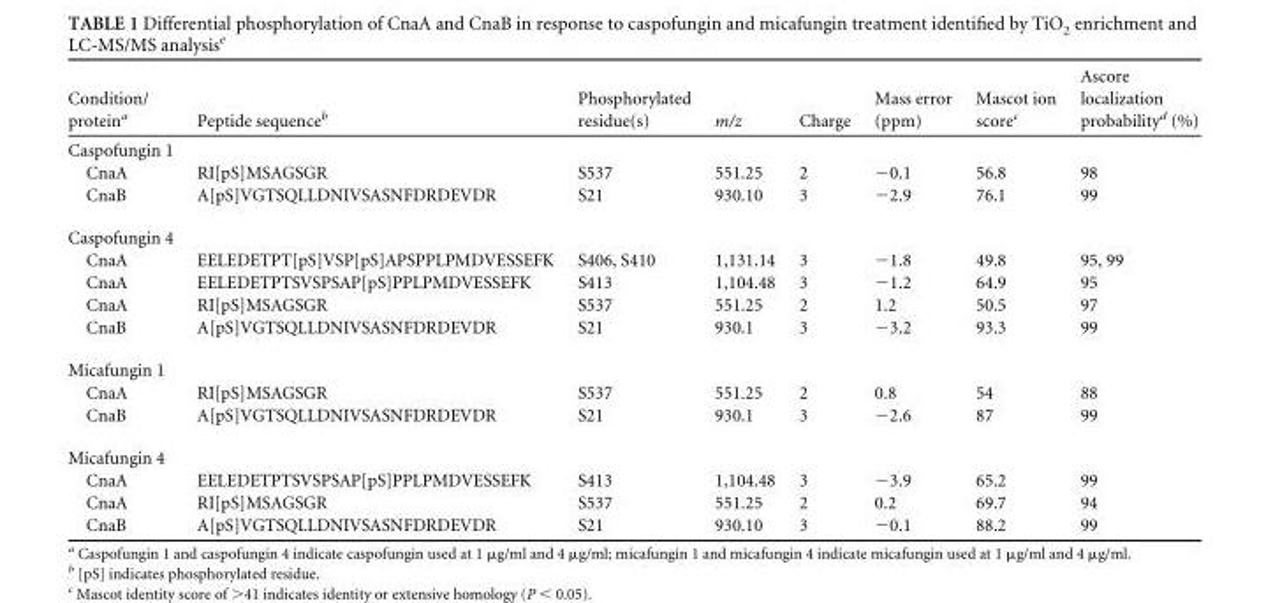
<table><thead><tr><td>Condition/ protein<sup>a</sup></td><td>Peptide sequence<sup>b</sup></td><td>Phosphorylated residue(s)</td><td>m/z</td><td>Charge</td><td>Mass error (ppm)</td><td>Mascot ion score<sup>c</sup></td><td>Ascore localization probability<sup>d</sup> (%)</td></tr></thead><tbody><tr><td colspan="8">Caspofungin 1</td></tr><tr><td>CnaA</td><td>RI[pS]MSAGSGR</td><td>S537</td><td>551.25</td><td>2</td><td>−0.1</td><td>56.8</td><td>98</td></tr><tr><td>CnaB</td><td>A[pS]VGTSQLLDNIVSASNFDRDEVDR</td><td>S21</td><td>930.10</td><td>3</td><td>−2.9</td><td>76.1</td><td>99</td></tr><tr><td colspan="8">Caspofungin 4</td></tr><tr><td>CnaA</td><td>EELEDETPT[pS]VSP[pS]APSPPLPMDVESSEFK</td><td>S406, S410</td><td>1,131.14</td><td>3</td><td>−1.8</td><td>49.8</td><td>95, 99</td></tr><tr><td>CnaA</td><td>EELEDETPTSVSPSAP[pS]PPLPMDVESSEFK</td><td>S413</td><td>1,104.48</td><td>3</td><td>−1.2</td><td>64.9</td><td>95</td></tr><tr><td>CnaA</td><td>RI[pS]MSAGSGR</td><td>S537</td><td>551.25</td><td>2</td><td>1.2</td><td>50.5</td><td>97</td></tr><tr><td>CnaB</td><td>A[pS]VGTSQLLDNIVSASNFDRDEVDR</td><td>S21</td><td>930.1</td><td>3</td><td>−3.2</td><td>93.3</td><td>99</td></tr><tr><td colspan="8">Micafungin 1</td></tr><tr><td>CnaA</td><td>RI[pS]MSAGSGR</td><td>S537</td><td>551.25</td><td>2</td><td>0.8</td><td>54</td><td>88</td></tr><tr><td>CnaB</td><td>A[pS]VGTSQLLDNIVSASNFDRDEVDR</td><td>S21</td><td>930.1</td><td>3</td><td>−2.6</td><td>87</td><td>99</td></tr><tr><td colspan="8">Micafungin 4</td></tr><tr><td>CnaA</td><td>EELEDETPTSVSPSAP[pS]PPLPMDVESSEFK</td><td>S413</td><td>1,104.48</td><td>3</td><td>−3.9</td><td>65.2</td><td>99</td></tr><tr><td>CnaA</td><td>RI[pS]MSAGSGR</td><td>S537</td><td>551.25</td><td>2</td><td>0.2</td><td>69.7</td><td>94</td></tr><tr><td>CnaB</td><td>A[pS]VGTSQLLDNIVSASNFDRDEVDR</td><td>S21</td><td>930.10</td><td>3</td><td>−0.1</td><td>88.2</td><td>99</td></tr></tbody></table>